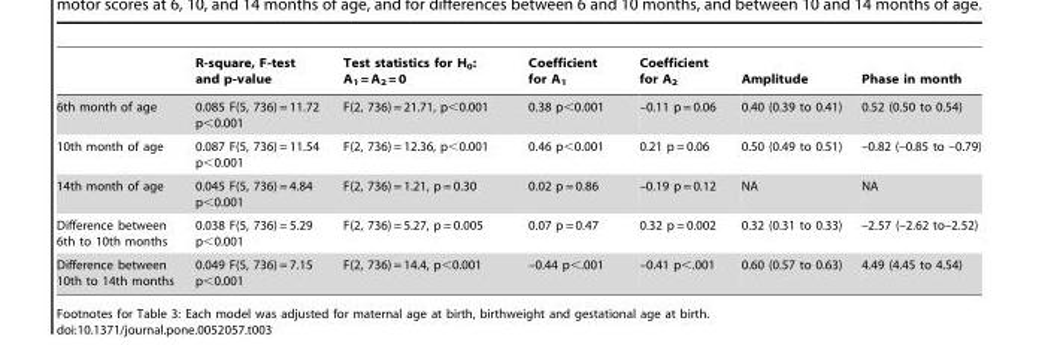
<table><thead><tr><td></td><td>R-square, F-test and p-value</td><td>Test statistics for H<sub>0</sub>: A<sub>1</sub> = A<sub>2</sub> = 0</td><td>Coefficient for A<sub>1</sub></td><td>Coefficient for A<sub>2</sub></td><td>Amplitude</td><td>Phase in month</td></tr></thead><tbody><tr><td>6th month of age</td><td>0.085 F(5, 736) = 11.72 p&lt;0.001</td><td>F(2, 736) = 21.71, p&lt;0.001</td><td>0.38 p&lt;0.001</td><td>–0.11 p = 0.06</td><td>0.40 (0.39 to 0.41)</td><td>0.52 (0.50 to 0.54)</td></tr><tr><td>10th month of age</td><td>0.087 F(5, 736) = 11.54 p&lt;0.001</td><td>F(2, 736) = 12.36, p&lt;0.001</td><td>0.46 p&lt;0.001</td><td>0.21 p = 0.06</td><td>0.50 (0.49 to 0.51)</td><td>–0.82 (–0.85 to –0.79)</td></tr><tr><td>14th month of age</td><td>0.045 F(5, 736) = 4.84 p&lt;0.001</td><td>F(2, 736) = 1.21, p = 0.30</td><td>0.02 p = 0.86</td><td>–0.19 p = 0.12</td><td>NA</td><td>NA</td></tr><tr><td>Difference between 6th to 10th months</td><td>0.038 F(5, 736) = 5.29 p&lt;0.001</td><td>F(2, 736) = 5.27, p = 0.005</td><td>0.07 p = 0.47</td><td>0.32 p = 0.002</td><td>0.32 (0.31 to 0.33)</td><td>–2.57 (–2.62 to–2.52)</td></tr><tr><td>Difference between 10th to 14th months</td><td>0.049 F(5, 736) = 7.15 p&lt;0.001</td><td>F(2, 736) = 14.4, p&lt;0.001</td><td>–0.44 p&lt;.001</td><td>–0.41 p&lt;.001</td><td>0.60 (0.57 to 0.63)</td><td>4.49 (4.45 to 4.54)</td></tr></tbody></table>